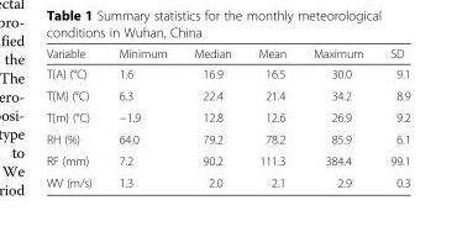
<table><thead><tr><td>Variable</td><td>Minimum</td><td>Median</td><td>Mean</td><td>Maximum</td><td>SD</td></tr></thead><tbody><tr><td>T{A} (°C)</td><td>1.6</td><td>16.9</td><td>16.5</td><td>30.0</td><td>9.1</td></tr><tr><td>T{M} (°C)</td><td>6.3</td><td>22.4</td><td>21.4</td><td>34.2</td><td>8.9</td></tr><tr><td>T{m} (°C)</td><td>−1.9</td><td>12.8</td><td>12.6</td><td>26.9</td><td>9.2</td></tr><tr><td>RH (%)</td><td>64.0</td><td>79.2</td><td>78.2</td><td>85.9</td><td>6.1</td></tr><tr><td>RF (mm)</td><td>7.2</td><td>90.2</td><td>111.3</td><td>384.4</td><td>99.1</td></tr><tr><td>WV (m/s)</td><td>1.3</td><td>2.0</td><td>2.1</td><td>2.9</td><td>0.3</td></tr></tbody></table>